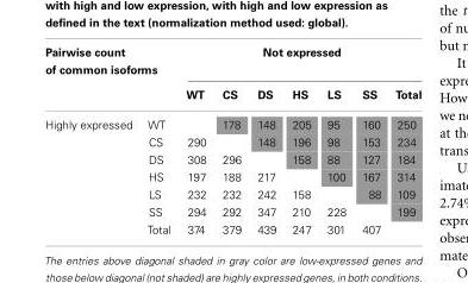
<table><thead><tr><td colspan="2">Pairwise count of common isoforms</td><td colspan="7">Not expressed</td></tr><tr><td></td><td></td><td>WT</td><td>CS</td><td>DS</td><td>HS</td><td>LS</td><td>SS</td><td>Total</td></tr></thead><tbody><tr><td rowspan="7">Highly expressed</td><td>WT</td><td></td><td>178</td><td>148</td><td>205</td><td>95</td><td>160</td><td>250</td></tr><tr><td>CS</td><td>290</td><td></td><td>148</td><td>196</td><td>98</td><td>153</td><td>234</td></tr><tr><td>DS</td><td>308</td><td>296</td><td></td><td>158</td><td>88</td><td>127</td><td>184</td></tr><tr><td>HS</td><td>197</td><td>188</td><td>217</td><td></td><td>100</td><td>167</td><td>314</td></tr><tr><td>LS</td><td>232</td><td>232</td><td>242</td><td>158</td><td></td><td>88</td><td>109</td></tr><tr><td>SS</td><td>294</td><td>292</td><td>347</td><td>210</td><td>228</td><td></td><td>199</td></tr><tr><td>Total</td><td>374</td><td>379</td><td>439</td><td>247</td><td>301</td><td>407</td><td></td></tr></tbody></table>